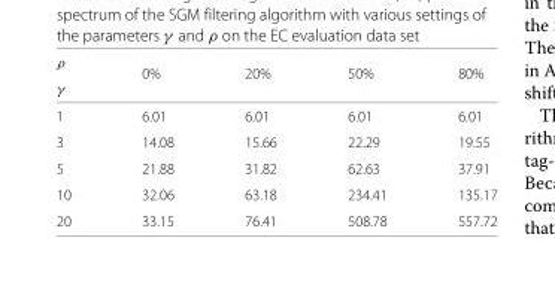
<table><thead><tr><td rowspan="2">ρ γ</td><td rowspan="2">0%</td><td rowspan="2">20%</td><td rowspan="2">50%</td><td rowspan="2">80%</td></tr><tr></tr></thead><tbody><tr><td>1</td><td>6.01</td><td>6.01</td><td>6.01</td><td>6.01</td></tr><tr><td>3</td><td>14.08</td><td>15.66</td><td>22.29</td><td>19.55</td></tr><tr><td>5</td><td>21.88</td><td>31.82</td><td>62.63</td><td>37.91</td></tr><tr><td>10</td><td>32.06</td><td>63.18</td><td>234.41</td><td>135.17</td></tr><tr><td>20</td><td>33.15</td><td>76.41</td><td>508.78</td><td>557.72</td></tr></tbody></table>